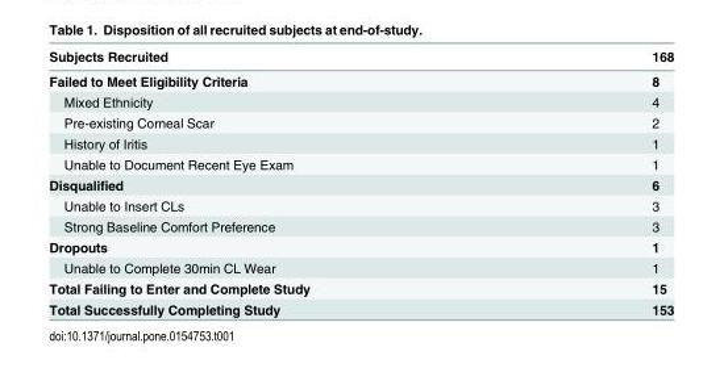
<table><thead><tr><td>Subjects Recruited</td><td>168</td></tr></thead><tbody><tr><td>Failed to Meet Eligibility Criteria</td><td>8</td></tr><tr><td>Mixed Ethnicity</td><td>4</td></tr><tr><td>Pre-existing Corneal Scar</td><td>2</td></tr><tr><td>History of Iritis</td><td>1</td></tr><tr><td>Unable to Document Recent Eye Exam</td><td>1</td></tr><tr><td>Disqualified</td><td>6</td></tr><tr><td>Unable to Insert CLs</td><td>3</td></tr><tr><td>Strong Baseline Comfort Preference</td><td>3</td></tr><tr><td>Dropouts</td><td>1</td></tr><tr><td>Unable to Complete 30min CL Wear</td><td>1</td></tr><tr><td>Total Failing to Enter and Complete Study</td><td>15</td></tr><tr><td>Total Successfully Completing Study</td><td>153</td></tr></tbody></table>